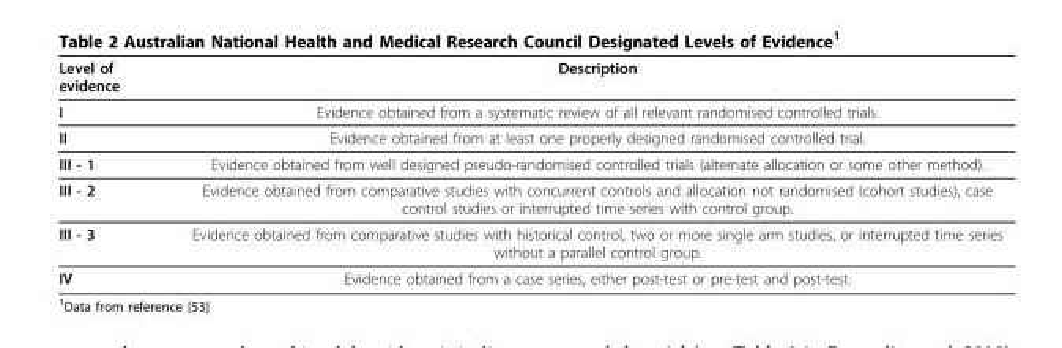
<table><thead><tr><td>Level of evidence</td><td>Description</td></tr></thead><tbody><tr><td>I</td><td>Evidence obtained from a systematic review of all relevant randomised controlled trials.</td></tr><tr><td>II</td><td>Evidence obtained from at least one properly designed randomised controlled trial.</td></tr><tr><td>III - 1</td><td>Evidence obtained from well designed pseudo-randomised controlled trials (alternate allocation or some other method).</td></tr><tr><td>III - 2</td><td>Evidence obtained from comparative studies with concurrent controls and allocation not randomised (cohort studies), case control studies or interrupted time series with control group.</td></tr><tr><td>III - 3</td><td>Evidence obtained from comparative studies with historical control, two or more single arm studies, or interrupted time series without a parallel control group.</td></tr><tr><td>IV</td><td>Evidence obtained from a case series, either post-test or pre-test and post-test.</td></tr></tbody></table>